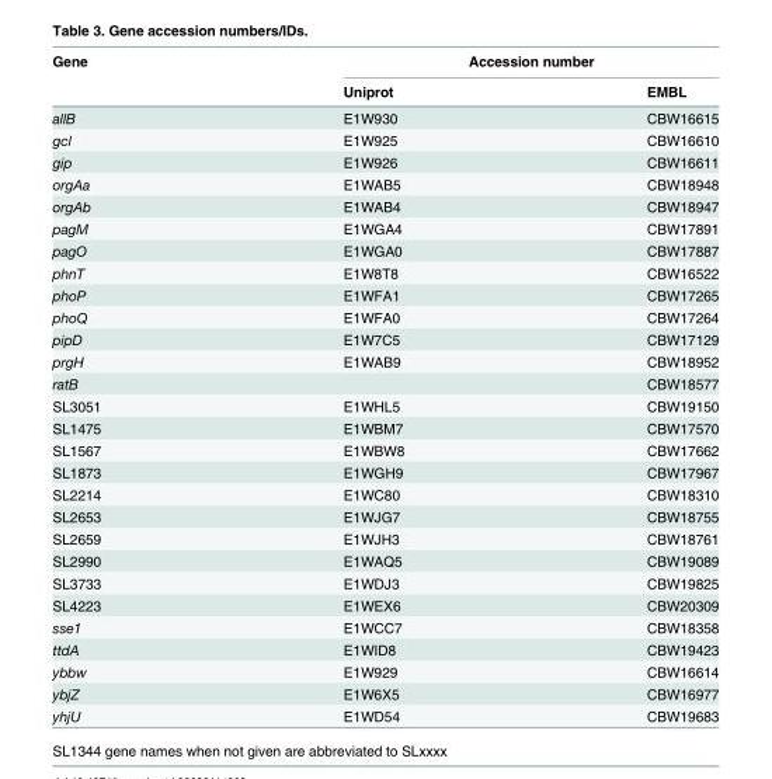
<table><thead><tr><td rowspan="2">Gene</td><td colspan="2">Accession number</td></tr><tr><td>Uniprot</td><td>EMBL</td></tr></thead><tbody><tr><td>allB</td><td>E1W930</td><td>CBW16615</td></tr><tr><td>gcl</td><td>E1W925</td><td>CBW16610</td></tr><tr><td>gip</td><td>E1W926</td><td>CBW16611</td></tr><tr><td>orgAa</td><td>E1WAB5</td><td>CBW18948</td></tr><tr><td>orgAb</td><td>E1WAB4</td><td>CBW18947</td></tr><tr><td>pagM</td><td>E1WGA4</td><td>CBW17891</td></tr><tr><td>pagO</td><td>E1WGA0</td><td>CBW17887</td></tr><tr><td>phnT</td><td>E1W8T8</td><td>CBW16522</td></tr><tr><td>phoP</td><td>E1WFA1</td><td>CBW17265</td></tr><tr><td>phoQ</td><td>E1WFA0</td><td>CBW17264</td></tr><tr><td>pipD</td><td>E1W7C5</td><td>CBW17129</td></tr><tr><td>prgH</td><td>E1WAB9</td><td>CBW18952</td></tr><tr><td>ratB</td><td></td><td>CBW18577</td></tr><tr><td>SL3051</td><td>E1WHL5</td><td>CBW19150</td></tr><tr><td>SL1475</td><td>E1WBM7</td><td>CBW17570</td></tr><tr><td>SL1567</td><td>E1WBW8</td><td>CBW17662</td></tr><tr><td>SL1873</td><td>E1WGH9</td><td>CBW17967</td></tr><tr><td>SL2214</td><td>E1WC80</td><td>CBW18310</td></tr><tr><td>SL2653</td><td>E1WJG7</td><td>CBW18755</td></tr><tr><td>SL2659</td><td>E1WJH3</td><td>CBW18761</td></tr><tr><td>SL2990</td><td>E1WAQ5</td><td>CBW19089</td></tr><tr><td>SL3733</td><td>E1WDJ3</td><td>CBW19825</td></tr><tr><td>SL4223</td><td>E1WEX6</td><td>CBW20309</td></tr><tr><td>sse1</td><td>E1WCC7</td><td>CBW18358</td></tr><tr><td>ttdA</td><td>E1WID8</td><td>CBW19423</td></tr><tr><td>ybbw</td><td>E1W929</td><td>CBW16614</td></tr><tr><td>ybjZ</td><td>E1W6X5</td><td>CBW16977</td></tr><tr><td>yhjU</td><td>E1WD54</td><td>CBW19683</td></tr></tbody></table>